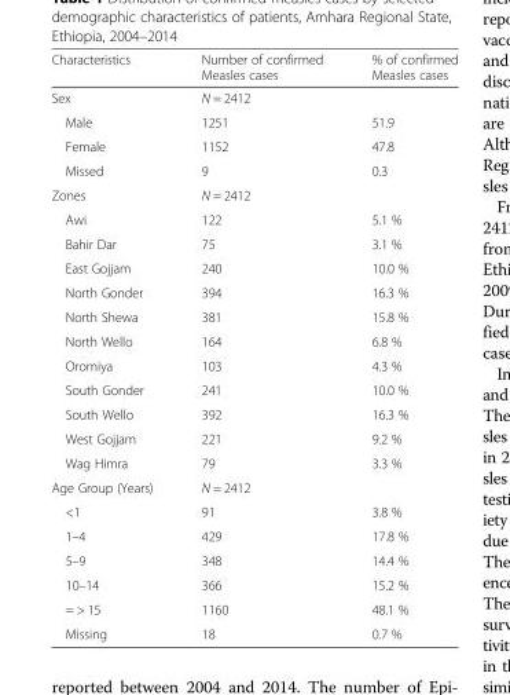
<table><thead><tr><td>Characteristics</td><td>Number of confirmed Measles cases</td><td>% of confirmed Measles cases</td></tr></thead><tbody><tr><td>Sex</td><td colspan="2">N = 2412</td></tr><tr><td>Male</td><td>1251</td><td>51.9</td></tr><tr><td>Female</td><td>1152</td><td>47.8</td></tr><tr><td>Missed</td><td>9</td><td>0.3</td></tr><tr><td>Zones</td><td colspan="2">N = 2412</td></tr><tr><td>Awi</td><td>122</td><td>5.1 %</td></tr><tr><td>Bahir Dar</td><td>75</td><td>3.1 %</td></tr><tr><td>East Gojjam</td><td>240</td><td>10.0 %</td></tr><tr><td>North Gonder</td><td>394</td><td>16.3 %</td></tr><tr><td>North Shewa</td><td>381</td><td>15.8 %</td></tr><tr><td>North Wello</td><td>164</td><td>6.8 %</td></tr><tr><td>Oromiya</td><td>103</td><td>4.3 %</td></tr><tr><td>South Gonder</td><td>241</td><td>10.0 %</td></tr><tr><td>South Wello</td><td>392</td><td>16.3 %</td></tr><tr><td>West Gojjam</td><td>221</td><td>9.2 %</td></tr><tr><td>Wag Himra</td><td>79</td><td>3.3 %</td></tr><tr><td>Age Group (Years)</td><td colspan="2">N = 2412</td></tr><tr><td>&lt;1</td><td>91</td><td>3.8 %</td></tr><tr><td>1–4</td><td>429</td><td>17.8 %</td></tr><tr><td>5–9</td><td>348</td><td>14.4 %</td></tr><tr><td>10–14</td><td>366</td><td>15.2 %</td></tr><tr><td>= &gt; 15</td><td>1160</td><td>48.1 %</td></tr><tr><td>Missing</td><td>18</td><td>0.7 %</td></tr></tbody></table>